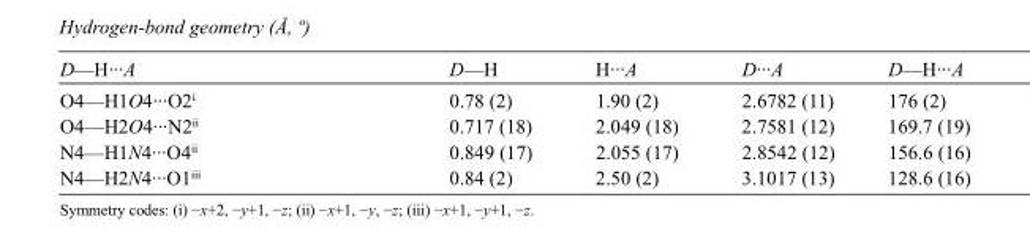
<table><tbody><tr><td>D—H···A</td><td>D—H</td><td>H···A</td><td>D···A</td><td>D—H···A</td></tr><tr><td>O4—H1O4···O2<sup>i</sup></td><td>0.78 (2)</td><td>1.90 (2)</td><td>2.6782 (11)</td><td>176 (2)</td></tr><tr><td>O4—H2O4···N2<sup>ii</sup></td><td>0.717 (18)</td><td>2.049 (18)</td><td>2.7581 (12)</td><td>169.7 (19)</td></tr><tr><td>N4—H1N4···O4<sup>ii</sup></td><td>0.849 (17)</td><td>2.055 (17)</td><td>2.8542 (12)</td><td>156.6 (16)</td></tr><tr><td>N4—H2N4···O1<sup>iii</sup></td><td>0.84 (2)</td><td>2.50 (2)</td><td>3.1017 (13)</td><td>128.6 (16)</td></tr></tbody></table>